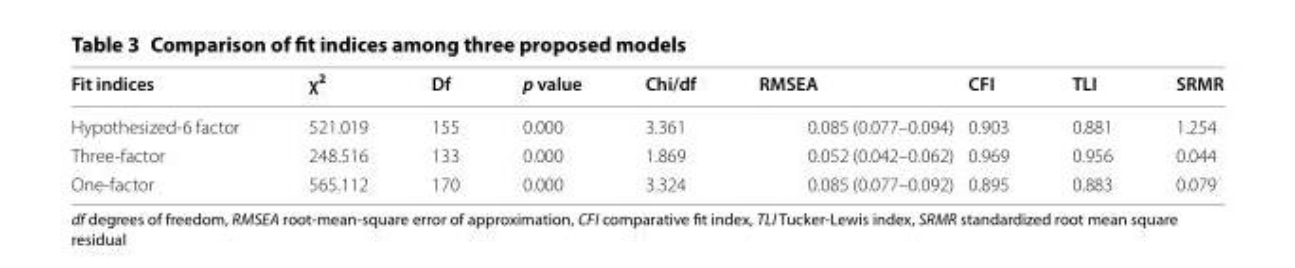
<table><thead><tr><td>Fit indices</td><td>χ<sup>2</sup></td><td>Df</td><td>p value</td><td>Chi/df</td><td>RMSEA</td><td>CFI</td><td>TLI</td><td>SRMR</td></tr></thead><tbody><tr><td>Hypothesized-6 factor</td><td>521.019</td><td>155</td><td>0.000</td><td>3.361</td><td>0.085 (0.077–0.094)</td><td>0.903</td><td>0.881</td><td>1.254</td></tr><tr><td>Three-factor</td><td>248.516</td><td>133</td><td>0.000</td><td>1.869</td><td>0.052 (0.042–0.062)</td><td>0.969</td><td>0.956</td><td>0.044</td></tr><tr><td>One-factor</td><td>565.112</td><td>170</td><td>0.000</td><td>3.324</td><td>0.085 (0.077–0.092)</td><td>0.895</td><td>0.883</td><td>0.079</td></tr></tbody></table>